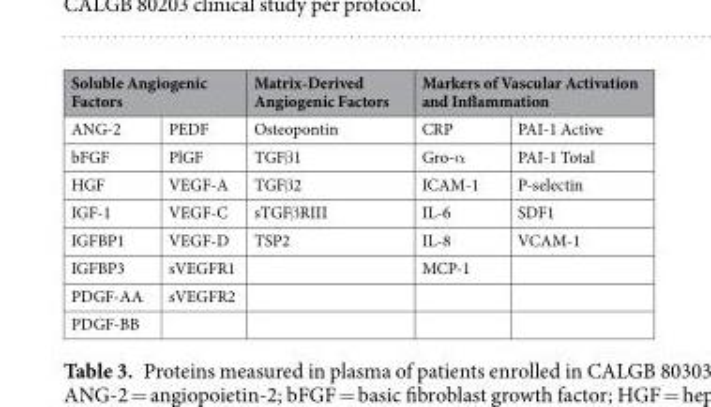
<table><thead><tr><td colspan="2">Soluble Angiogenic Factors</td><td rowspan="2">Matrix-Derived Angiogenic Factors Osteopontin</td><td colspan="2">Markers of Vascular Activation and Inflammation</td></tr><tr><td>ANG-2</td><td>PEDF</td><td>CRP</td><td>PAI-1 Active</td></tr></thead><tbody><tr><td>bFGF</td><td>PlGF</td><td>TGFβ1</td><td>Gro-α</td><td>PAI-1 Total</td></tr><tr><td>HGF</td><td>VEGF-A</td><td>TGFβ2</td><td>ICAM-1</td><td>P-selectin</td></tr><tr><td>IGF-1</td><td>VEGF-C</td><td>sTGFβRIII</td><td>IL-6</td><td>SDF1</td></tr><tr><td>IGFBP1</td><td>VEGF-D</td><td>TSP2</td><td>IL-8</td><td>VCAM-1</td></tr><tr><td>IGFBP3</td><td>sVEGFR1</td><td></td><td>MCP-1</td><td></td></tr><tr><td>PDGF-AA</td><td>sVEGFR2</td><td></td><td></td><td></td></tr><tr><td>PDGF-BB</td><td></td><td></td><td></td><td></td></tr></tbody></table>